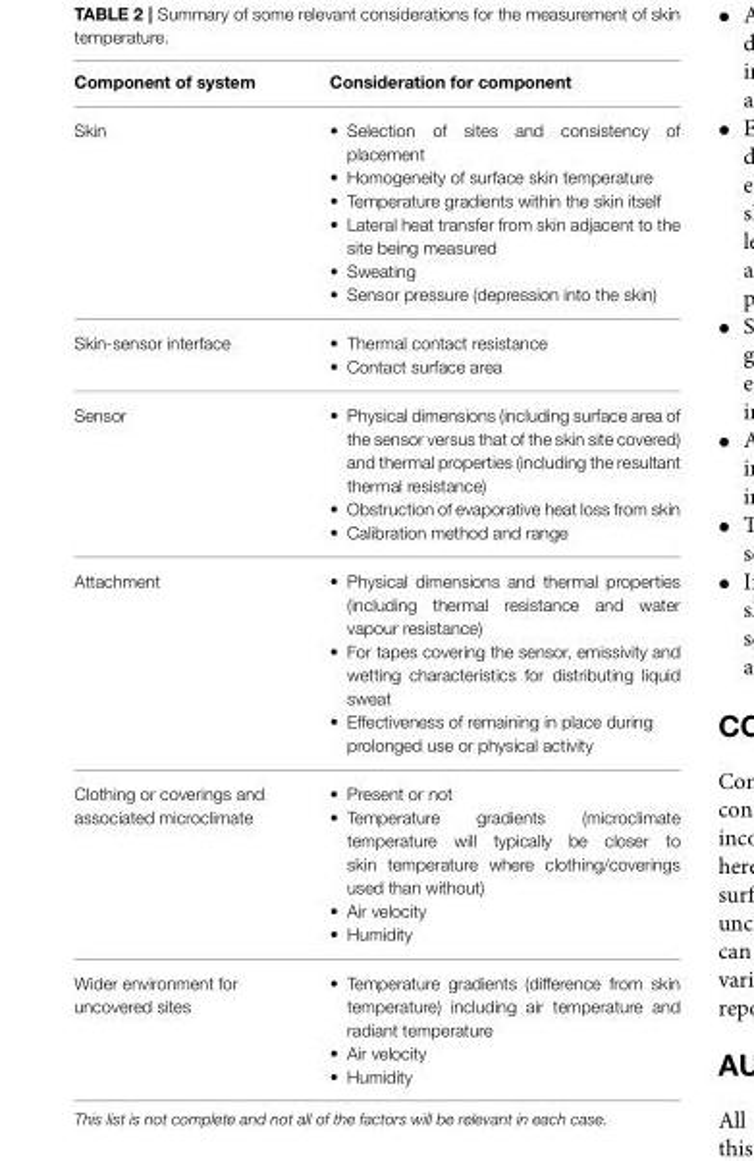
<table><thead><tr><td>Component of system</td><td>Consideration for component</td></tr></thead><tbody><tr><td>Skin</td><td>• Selection of sites and consistency of placement • Homogeneity of surface skin temperature • Temperature gradients within the skin itself • Lateral heat transfer from skin adjacent to the site being measured • Sweating • Sensor pressure (depression into the skin)</td></tr><tr><td>Skin-sensor interface</td><td>• Thermal contact resistance • Contact surface area</td></tr><tr><td>Sensor</td><td>• Physical dimensions (including surface area of the sensor versus that of the skin site covered) and thermal properties (including the resultant thermal resistance) • Obstruction of evaporative heat loss from skin • Calibration method and range</td></tr><tr><td>Attachment</td><td>• Physical dimensions and thermal properties (including thermal resistance and water vapour resistance) • For tapes covering the sensor, emissivity and wetting characteristics for distributing liquid sweat • Effectiveness of remaining in place during prolonged use or physical activity</td></tr><tr><td>Clothing or coverings and associated microclimate</td><td>• Present or not • Temperature gradients (microclimate temperature will typically be closer to skin temperature where clothing/coverings used than without) • Air velocity • Humidity</td></tr><tr><td>Wider environment for uncovered sites</td><td>• Temperature gradients (difference from skin temperature) including air temperature and radiant temperature • Air velocity • Humidity</td></tr></tbody></table>